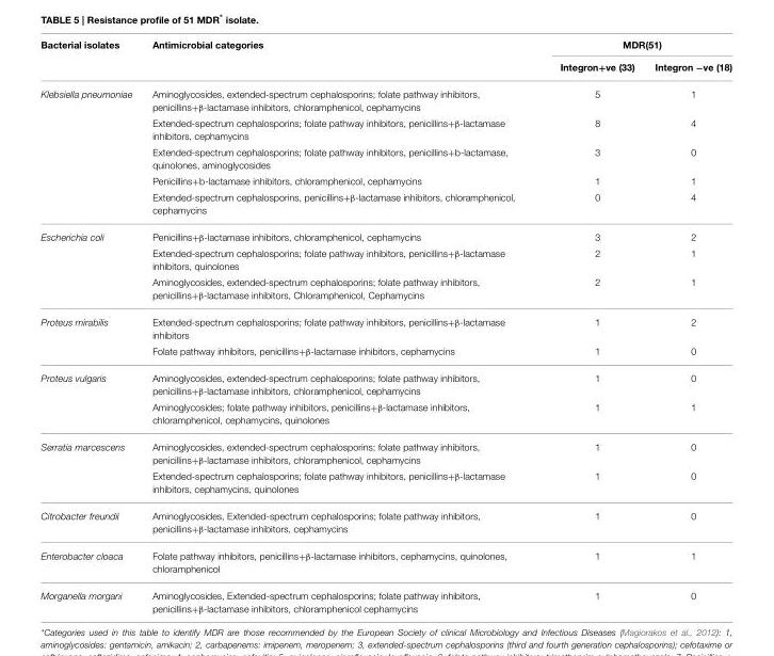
<table><thead><tr><td rowspan="2">Bacterial isolates</td><td rowspan="2">Antimicrobial categories</td><td colspan="2">MDR(51)</td></tr><tr><td>Integron+ve (33)</td><td>Integron −ve (18)</td></tr></thead><tbody><tr><td rowspan="5">Klebsiella pneumoniae</td><td>Aminoglycosides, extended-spectrum cephalosporins; folate pathway inhibitors, penicillins+β-lactamase inhibitors, chloramphenicol, cephamycins</td><td>5</td><td>1</td></tr><tr><td>Extended-spectrum cephalosporins; folate pathway inhibitors, penicillins+β-lactamase inhibitors, cephamycins</td><td>8</td><td>4</td></tr><tr><td>Extended-spectrum cephalosporins; folate pathway inhibitors, penicillins+b-lactamase, quinolones, aminoglycosides</td><td>3</td><td>0</td></tr><tr><td>Penicillins+b-lactamase inhibitors, chloramphenicol, cephamycins</td><td>1</td><td>1</td></tr><tr><td>Extended-spectrum cephalosporins, penicillins+β-lactamase inhibitors, chloramphenicol, cephamycins</td><td>0</td><td>4</td></tr><tr><td rowspan="3">Escherichia coli</td><td>Penicillins+β-lactamase inhibitors, chloramphenicol, cephamycins</td><td>3</td><td>2</td></tr><tr><td>Extended-spectrum cephalosporins; folate pathway inhibitors, penicillins+β-lactamase inhibitors, quinolones</td><td>2</td><td>1</td></tr><tr><td>Aminoglycosides, extended-spectrum cephalosporins; folate pathway inhibitors, penicillins+β-lactamase inhibitors, Chloramphenicol, Cephamycins</td><td>2</td><td>1</td></tr><tr><td rowspan="2">Proteus mirabilis</td><td>Extended-spectrum cephalosporins; folate pathway inhibitors, penicillins+β-lactamase inhibitors</td><td>1</td><td>2</td></tr><tr><td>Folate pathway inhibitors, penicillins+β-lactamase inhibitors, cephamycins</td><td>1</td><td>0</td></tr><tr><td rowspan="2">Proteus vulgaris</td><td>Aminoglycosides, extended-spectrum cephalosporins; folate pathway inhibitors, penicillins+β-lactamase inhibitors, chloramphenicol, cephamycins</td><td>1</td><td>0</td></tr><tr><td>Aminoglycosides; folate pathway inhibitors, penicillins+β-lactamase inhibitors, chloramphenicol, cephamycins, quinolones</td><td>1</td><td>1</td></tr><tr><td rowspan="2">Serratia marcescens</td><td>Aminoglycosides, extended-spectrum cephalosporins; folate pathway inhibitors, penicillins+β-lactamase inhibitors, chloramphenicol, cephamycins</td><td>1</td><td>0</td></tr><tr><td>Extended-spectrum cephalosporins; folate pathway inhibitors, penicillins+β-lactamase inhibitors, cephamycins, quinolones</td><td>1</td><td>0</td></tr><tr><td>Citrobacter freundii</td><td>Aminoglycosides, Extended-spectrum cephalosporins; folate pathway inhibitors, penicillins+β-lactamase inhibitors, cephamycins</td><td>1</td><td>0</td></tr><tr><td>Enterobacter cloaca</td><td>Folate pathway inhibitors, penicillins+β-lactamase inhibitors, cephamycins, quinolones, chloramphenicol</td><td>1</td><td>1</td></tr><tr><td>Morganella morgani</td><td>Aminoglycosides, Extended-spectrum cephalosporins; folate pathway inhibitors, penicillins+β-lactamase inhibitors, chloramphenicol cephamycins</td><td>1</td><td>0</td></tr></tbody></table>